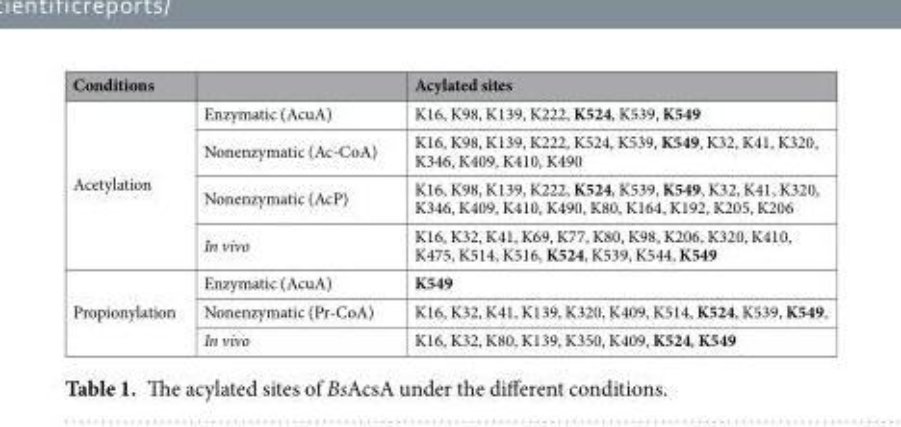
<table><thead><tr><td>Conditions</td><td></td><td>Acylated sites</td></tr></thead><tbody><tr><td rowspan="4">Acetylation</td><td>Enzymatic (AcuA)</td><td>K16, K98, K139, K222, K524, K539, K549</td></tr><tr><td>Nonenzymatic (Ac-CoA)</td><td>K16, K98, K139, K222, K524, K539, K549, K32, K41, K320, K346, K409, K410, K490</td></tr><tr><td>Nonenzymatic (AcP)</td><td>K16, K98, K139, K222, K524, K539, K549, K32, K41, K320, K346, K409, K410, K490, K80, K164, K192, K205, K206</td></tr><tr><td>In vivo</td><td>K16, K32, K41, K69, K77, K80, K98, K206, K320, K410, K475, K514, K516, K524, K539, K544, K549</td></tr><tr><td rowspan="3">Propionylation</td><td>Enzymatic (AcuA)</td><td>K549</td></tr><tr><td>Nonenzymatic (Pr-CoA)</td><td>K16, K32, K41, K139, K320, K409, K514, K524, K539, K549,</td></tr><tr><td>In vivo</td><td>K16, K32, K80, K139, K350, K409, K524, K549</td></tr></tbody></table>